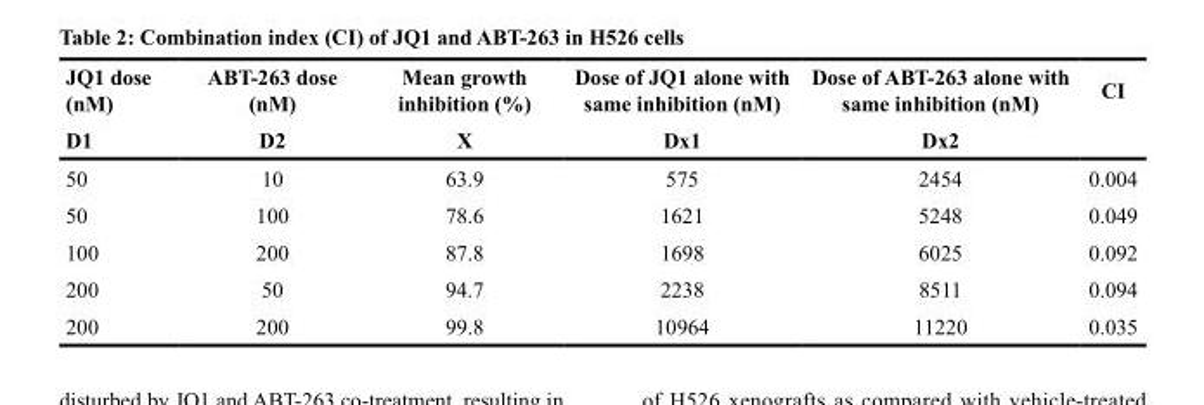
<table><thead><tr><td rowspan="2">JQ1 dose (nM) D1</td><td rowspan="2">ABT-263 dose (nM) D2</td><td rowspan="2">Mean growth inhibition (%) X</td><td rowspan="2">Dose of JQ1 alone with same inhibition (nM) Dx1</td><td rowspan="2">Dose of ABT-263 alone with same inhibition (nM) Dx2</td><td rowspan="2">CI</td></tr><tr></tr></thead><tbody><tr><td>50</td><td>10</td><td>63.9</td><td>575</td><td>2454</td><td>0.004</td></tr><tr><td>50</td><td>100</td><td>78.6</td><td>1621</td><td>5248</td><td>0.049</td></tr><tr><td>100</td><td>200</td><td>87.8</td><td>1698</td><td>6025</td><td>0.092</td></tr><tr><td>200</td><td>50</td><td>94.7</td><td>2238</td><td>8511</td><td>0.094</td></tr><tr><td>200</td><td>200</td><td>99.8</td><td>10964</td><td>11220</td><td>0.035</td></tr></tbody></table>